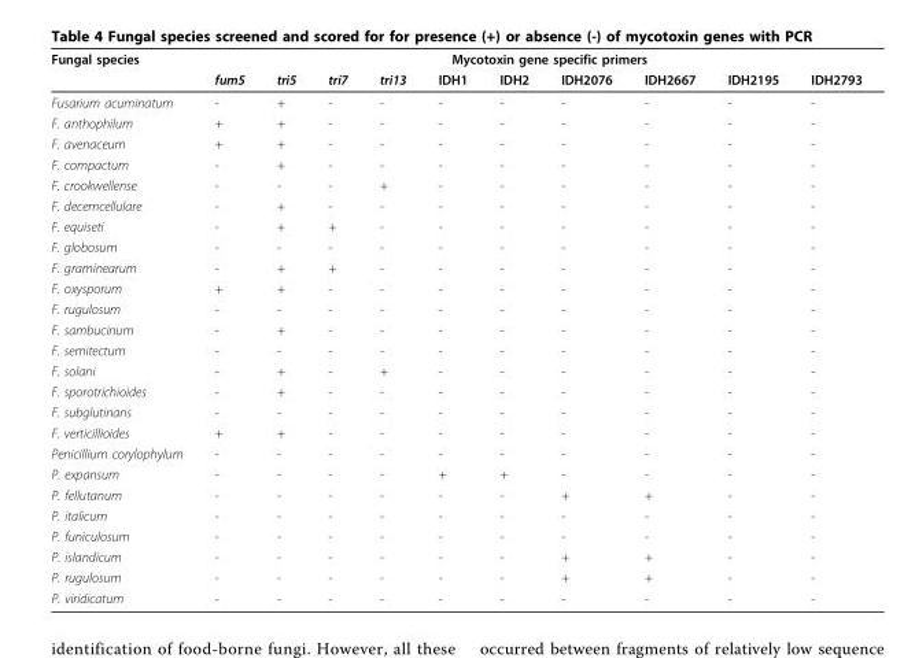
<table><thead><tr><td rowspan="2">Fungal species</td><td colspan="10">Mycotoxin gene specific primers</td></tr><tr><td>fum5</td><td>tri5</td><td>tri7</td><td>tri13</td><td>IDH1</td><td>IDH2</td><td>IDH2076</td><td>IDH2667</td><td>IDH2195</td><td>IDH2793</td></tr></thead><tbody><tr><td>Fusarium acuminatum</td><td>-</td><td>+</td><td>-</td><td>-</td><td>-</td><td>-</td><td>-</td><td>-</td><td>-</td><td>-</td></tr><tr><td>F. anthophilum</td><td>+</td><td>+</td><td>-</td><td>-</td><td>-</td><td>-</td><td>-</td><td>-</td><td>-</td><td>-</td></tr><tr><td>F. avenaceum</td><td>+</td><td>+</td><td>-</td><td>-</td><td>-</td><td>-</td><td>-</td><td>-</td><td>-</td><td>-</td></tr><tr><td>F. compactum</td><td>-</td><td>+</td><td>-</td><td>-</td><td>-</td><td>-</td><td>-</td><td>-</td><td>-</td><td>-</td></tr><tr><td>F. crookwellense</td><td>-</td><td>-</td><td>-</td><td>+</td><td>-</td><td>-</td><td>-</td><td>-</td><td>-</td><td>-</td></tr><tr><td>F. decemcellulare</td><td>-</td><td>+</td><td>-</td><td>-</td><td>-</td><td>-</td><td>-</td><td>-</td><td>-</td><td>-</td></tr><tr><td>F. equiseti</td><td>-</td><td>+</td><td>+</td><td>-</td><td>-</td><td>-</td><td>-</td><td>-</td><td>-</td><td>-</td></tr><tr><td>F. globosum</td><td>-</td><td>-</td><td>-</td><td>-</td><td>-</td><td>-</td><td>-</td><td>-</td><td>-</td><td>-</td></tr><tr><td>F. graminearum</td><td>-</td><td>+</td><td>+</td><td>-</td><td>-</td><td>-</td><td>-</td><td>-</td><td>-</td><td>-</td></tr><tr><td>F. oxysporum</td><td>+</td><td>+</td><td>-</td><td>-</td><td>-</td><td>-</td><td>-</td><td>-</td><td>-</td><td>-</td></tr><tr><td>F. rugulosum</td><td>-</td><td>-</td><td>-</td><td>-</td><td>-</td><td>-</td><td>-</td><td>-</td><td>-</td><td>-</td></tr><tr><td>F. sambucinum</td><td>-</td><td>+</td><td>-</td><td>-</td><td>-</td><td>-</td><td>-</td><td>-</td><td>-</td><td>-</td></tr><tr><td>F. semitectum</td><td>-</td><td>-</td><td>-</td><td>-</td><td>-</td><td>-</td><td>-</td><td>-</td><td>-</td><td>-</td></tr><tr><td>F. solani</td><td>-</td><td>+</td><td>-</td><td>+</td><td>-</td><td>-</td><td>-</td><td>-</td><td>-</td><td>-</td></tr><tr><td>F. sporotrichioides</td><td>-</td><td>+</td><td>-</td><td>-</td><td>-</td><td>-</td><td>-</td><td>-</td><td>-</td><td>-</td></tr><tr><td>F. subglutinans</td><td>-</td><td>-</td><td>-</td><td>-</td><td>-</td><td>-</td><td>-</td><td>-</td><td>-</td><td>-</td></tr><tr><td>F. verticillioides</td><td>+</td><td>+</td><td>-</td><td>-</td><td>-</td><td>-</td><td>-</td><td>-</td><td>-</td><td>-</td></tr><tr><td>Penicillium corylophylum</td><td>-</td><td>-</td><td>-</td><td>-</td><td>-</td><td>-</td><td>-</td><td>-</td><td>-</td><td>-</td></tr><tr><td>P. expansum</td><td>-</td><td>-</td><td>-</td><td>-</td><td>+</td><td>+</td><td>-</td><td>-</td><td>-</td><td>-</td></tr><tr><td>P. fellutanum</td><td>-</td><td>-</td><td>-</td><td>-</td><td>-</td><td>-</td><td>+</td><td>+</td><td>-</td><td>-</td></tr><tr><td>P. italicum</td><td>-</td><td>-</td><td>-</td><td>-</td><td>-</td><td>-</td><td>-</td><td>-</td><td>-</td><td>-</td></tr><tr><td>P. funiculosum</td><td>-</td><td>-</td><td>-</td><td>-</td><td>-</td><td>-</td><td>-</td><td>-</td><td>-</td><td>-</td></tr><tr><td>P. islandicum</td><td>-</td><td>-</td><td>-</td><td>-</td><td>-</td><td>-</td><td>+</td><td>+</td><td>-</td><td>-</td></tr><tr><td>P. rugulosum</td><td>-</td><td>-</td><td>-</td><td>-</td><td>-</td><td>-</td><td>+</td><td>+</td><td>-</td><td>-</td></tr><tr><td>P. viridicatum</td><td>-</td><td>-</td><td>-</td><td>-</td><td>-</td><td>-</td><td>-</td><td>-</td><td>-</td><td>-</td></tr></tbody></table>